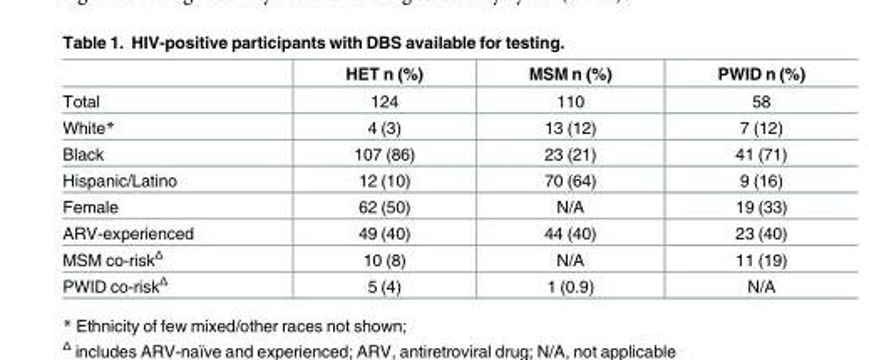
<table><thead><tr><td></td><td>HET n (%)</td><td>MSM n (%)</td><td>PWID n (%)</td></tr></thead><tbody><tr><td>Total</td><td>124</td><td>110</td><td>58</td></tr><tr><td>White*</td><td>4 (3)</td><td>13 (12)</td><td>7 (12)</td></tr><tr><td>Black</td><td>107 (86)</td><td>23 (21)</td><td>41 (71)</td></tr><tr><td>Hispanic/Latino</td><td>12 (10)</td><td>70 (64)</td><td>9 (16)</td></tr><tr><td>Female</td><td>62 (50)</td><td>N/A</td><td>19 (33)</td></tr><tr><td>ARV-experienced</td><td>49 (40)</td><td>44 (40)</td><td>23 (40)</td></tr><tr><td>MSM co-risk<sup>Δ</sup></td><td>10 (8)</td><td>N/A</td><td>11 (19)</td></tr><tr><td>PWID co-risk<sup>Δ</sup></td><td>5 (4)</td><td>1 (0.9)</td><td>N/A</td></tr></tbody></table>